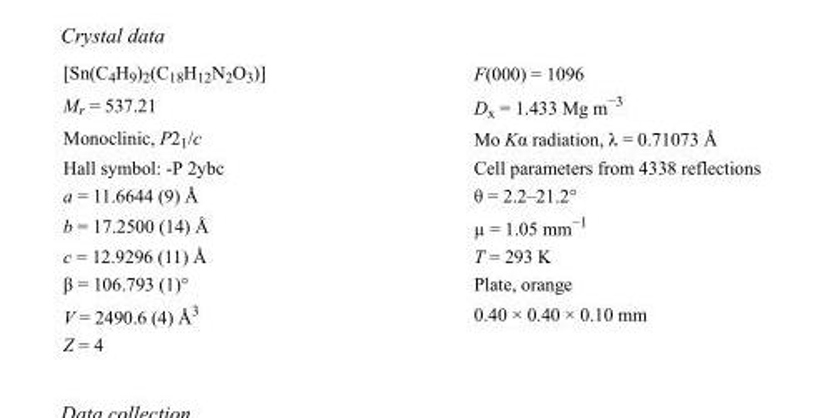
<table><tbody><tr><td>[Sn(C<sub>4</sub>H<sub>9</sub>)<sub>2</sub>(C<sub>18</sub>H<sub>12</sub>N<sub>2</sub>O<sub>3</sub>)]</td><td>F(000) = 1096</td></tr><tr><td>M<sub>r</sub> = 537.21</td><td>D<sub>x</sub> = 1.433 Mg m<sup>−3</sup></td></tr><tr><td>Monoclinic, P2<sub>1</sub>/c</td><td>Mo Kα radiation, λ = 0.71073 Å</td></tr><tr><td>Hall symbol: -P 2ybc</td><td>Cell parameters from 4338 reflections</td></tr><tr><td>a = 11.6644 (9) Å</td><td>θ = 2.2–21.2°</td></tr><tr><td>b = 17.2500 (14) Å</td><td>µ = 1.05 mm<sup>−1</sup></td></tr><tr><td>c = 12.9296 (11) Å</td><td>T = 293 K</td></tr><tr><td>β = 106.793 (1)°</td><td>Plate, orange</td></tr><tr><td>V = 2490.6 (4) Å<sup>3</sup></td><td>0.40 × 0.40 × 0.10 mm</td></tr><tr><td>Z = 4</td><td></td></tr></tbody></table>